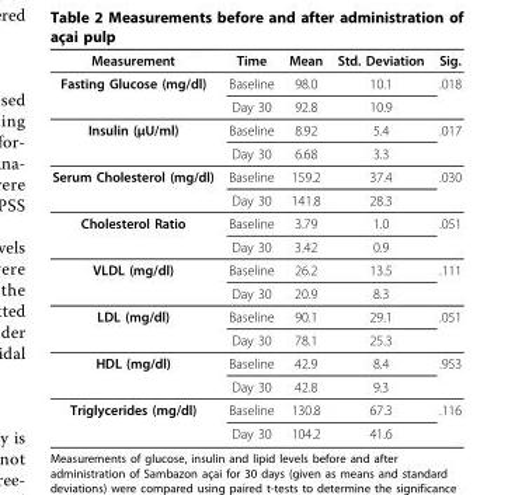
<table><thead><tr><td>Measurement</td><td>Time</td><td>Mean</td><td>Std. Deviation</td><td>Sig.</td></tr></thead><tbody><tr><td rowspan="2">Fasting Glucose (mg/dl)</td><td>Baseline</td><td>98.0</td><td>10.1</td><td>.018</td></tr><tr><td>Day 30</td><td>92.8</td><td>10.9</td><td></td></tr><tr><td rowspan="2">Insulin (μU/ml)</td><td>Baseline</td><td>8.92</td><td>5.4</td><td>.017</td></tr><tr><td>Day 30</td><td>6.68</td><td>3.3</td><td></td></tr><tr><td rowspan="2">Serum Cholesterol (mg/dl)</td><td>Baseline</td><td>159.2</td><td>37.4</td><td>.030</td></tr><tr><td>Day 30</td><td>141.8</td><td>28.3</td><td></td></tr><tr><td rowspan="2">Cholesterol Ratio</td><td>Baseline</td><td>3.79</td><td>1.0</td><td>.051</td></tr><tr><td>Day 30</td><td>3.42</td><td>0.9</td><td></td></tr><tr><td rowspan="2">VLDL (mg/dl)</td><td>Baseline</td><td>26.2</td><td>13.5</td><td>.111</td></tr><tr><td>Day 30</td><td>20.9</td><td>8.3</td><td></td></tr><tr><td rowspan="2">LDL (mg/dl)</td><td>Baseline</td><td>90.1</td><td>29.1</td><td>.051</td></tr><tr><td>Day 30</td><td>78.1</td><td>25.3</td><td></td></tr><tr><td rowspan="2">HDL (mg/dl)</td><td>Baseline</td><td>42.9</td><td>8.4</td><td>.953</td></tr><tr><td>Day 30</td><td>42.8</td><td>9.3</td><td></td></tr><tr><td rowspan="2">Triglycerides (mg/dl)</td><td>Baseline</td><td>130.8</td><td>67.3</td><td>.116</td></tr><tr><td>Day 30</td><td>104.2</td><td>41.6</td><td></td></tr></tbody></table>